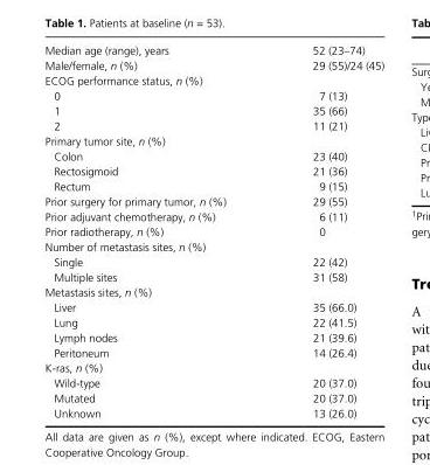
<table><tbody><tr><td>Median age (range), years</td><td>52 (23–74)</td></tr><tr><td>Male/female, n (%)</td><td>29 (55)/24 (45)</td></tr><tr><td colspan="2">ECOG performance status, n (%)</td></tr><tr><td>0</td><td>7 (13)</td></tr><tr><td>1</td><td>35 (66)</td></tr><tr><td>2</td><td>11 (21)</td></tr><tr><td colspan="2">Primary tumor site, n (%)</td></tr><tr><td>Colon</td><td>23 (40)</td></tr><tr><td>Rectosigmoid</td><td>21 (36)</td></tr><tr><td>Rectum</td><td>9 (15)</td></tr><tr><td>Prior surgery for primary tumor, n (%)</td><td>29 (55)</td></tr><tr><td>Prior adjuvant chemotherapy, n (%)</td><td>6 (11)</td></tr><tr><td>Prior radiotherapy, n (%)</td><td>0</td></tr><tr><td colspan="2">Number of metastasis sites, n (%)</td></tr><tr><td>Single</td><td>22 (42)</td></tr><tr><td>Multiple sites</td><td>31 (58)</td></tr><tr><td colspan="2">Metastasis sites, n (%)</td></tr><tr><td>Liver</td><td>35 (66.0)</td></tr><tr><td>Lung</td><td>22 (41.5)</td></tr><tr><td>Lymph nodes</td><td>21 (39.6)</td></tr><tr><td>Peritoneum</td><td>14 (26.4)</td></tr><tr><td colspan="2">K- ras, n (%)</td></tr><tr><td>Wild- type</td><td>20 (37.0)</td></tr><tr><td>Mutated</td><td>20 (37.0)</td></tr><tr><td>Unknown</td><td>13 (26.0)</td></tr></tbody></table>